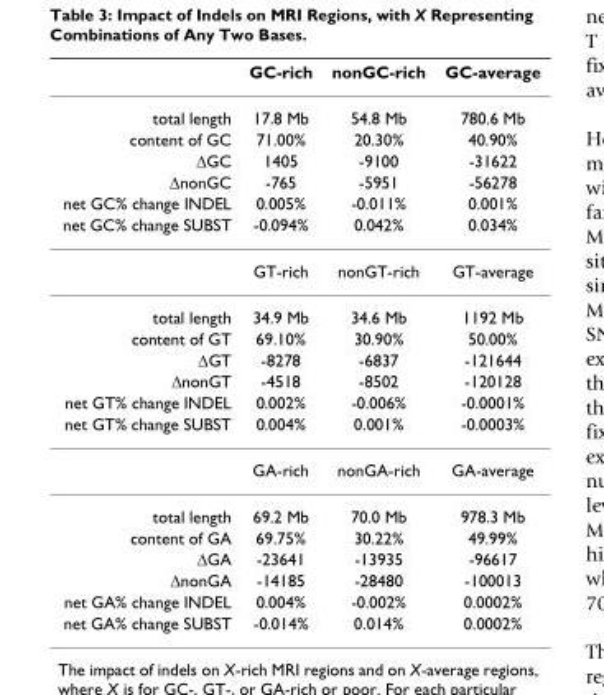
<table><thead><tr><td></td><td>GC-rich</td><td>nonGC-rich</td><td>GC-average</td></tr></thead><tbody><tr><td>total length</td><td>17.8 Mb</td><td>54.8 Mb</td><td>780.6 Mb</td></tr><tr><td>content of GC</td><td>71.00%</td><td>20.30%</td><td>40.90%</td></tr><tr><td>ΔGC</td><td>1405</td><td>-9100</td><td>-31622</td></tr><tr><td>ΔnonGC</td><td>-765</td><td>-5951</td><td>-56278</td></tr><tr><td>net GC% change INDEL</td><td>0.005%</td><td>-0.011%</td><td>0.001%</td></tr><tr><td rowspan="2">net GC% change SUBST</td><td>-0.094%</td><td>0.042%</td><td>0.034%</td></tr><tr><td>GT-rich</td><td>nonGT-rich</td><td>GT-average</td></tr><tr><td>total length</td><td>34.9 Mb</td><td>34.6 Mb</td><td>1192 Mb</td></tr><tr><td>content of GT</td><td>69.10%</td><td>30.90%</td><td>50.00%</td></tr><tr><td>ΔGT</td><td>-8278</td><td>-6837</td><td>-121644</td></tr><tr><td>ΔnonGT</td><td>-4518</td><td>-8502</td><td>-120128</td></tr><tr><td>net GT% change INDEL</td><td>0.002%</td><td>-0.006%</td><td>-0.0001%</td></tr><tr><td rowspan="2">net GT% change SUBST</td><td>0.004%</td><td>0.001%</td><td>-0.0003%</td></tr><tr><td>GA-rich</td><td>nonGA-rich</td><td>GA-average</td></tr><tr><td>total length</td><td>69.2 Mb</td><td>70.0 Mb</td><td>978.3 Mb</td></tr><tr><td>content of GA</td><td>69.75%</td><td>30.22%</td><td>49.99%</td></tr><tr><td>ΔGA</td><td>-23641</td><td>-13935</td><td>-96617</td></tr><tr><td>ΔnonGA</td><td>-14185</td><td>-28480</td><td>-100013</td></tr><tr><td>net GA% change INDEL</td><td>0.004%</td><td>-0.002%</td><td>0.0002%</td></tr><tr><td>net GA% change SUBST</td><td>-0.014%</td><td>0.014%</td><td>0.0002%</td></tr></tbody></table>